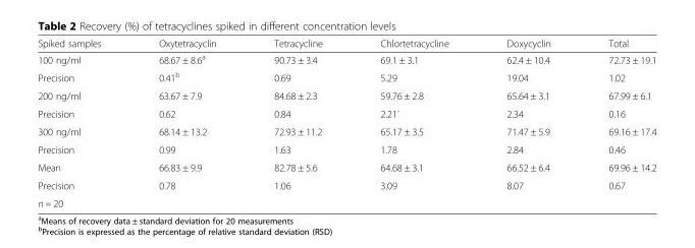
<table><thead><tr><td>Spiked samples</td><td>Oxytetracyclin</td><td>Tetracycline</td><td>Chlortetracycline</td><td>Doxycyclin</td><td>Total</td></tr></thead><tbody><tr><td>100 ng/ml</td><td>68.67 ± 8.6<sup>a</sup></td><td>90.73 ± 3.4</td><td>69.1 ± 3.1</td><td>62.4 ± 10.4</td><td>72.73 ± 19.1</td></tr><tr><td>Precision</td><td>0.41<sup>b</sup></td><td>0.69</td><td>5.29</td><td>19.04</td><td>1.02</td></tr><tr><td>200 ng/ml</td><td>63.67 ± 7.9</td><td>84.68 ± 2.3</td><td>59.76 ± 2.8</td><td>65.64 ± 3.1</td><td>67.99 ± 6.1</td></tr><tr><td>Precision</td><td>0.62</td><td>0.84</td><td>2.21`</td><td>2.34</td><td>0.16</td></tr><tr><td>300 ng/ml</td><td>68.14 ± 13.2</td><td>72.93 ± 11.2</td><td>65.17 ± 3.5</td><td>71.47 ± 5.9</td><td>69.16 ± 17.4</td></tr><tr><td>Precision</td><td>0.99</td><td>1.63</td><td>1.78</td><td>2.84</td><td>0.46</td></tr><tr><td>Mean</td><td>66.83 ± 9.9</td><td>82.78 ± 5.6</td><td>64.68 ± 3.1</td><td>66.52 ± 6.4</td><td>69.96 ± 14.2</td></tr><tr><td>Precision</td><td rowspan="2">0.78</td><td rowspan="2">1.06</td><td rowspan="2">3.09</td><td rowspan="2">8.07</td><td rowspan="2">0.67</td></tr><tr><td>n = 20</td></tr></tbody></table>